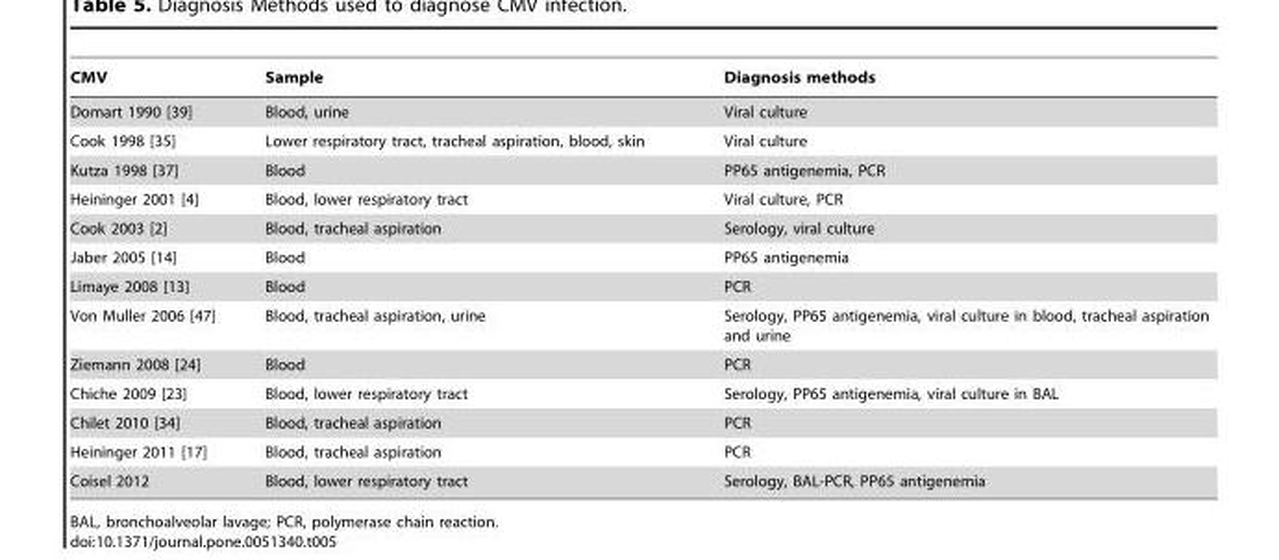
<table><thead><tr><td>CMV</td><td>Sample</td><td>Diagnosis methods</td></tr></thead><tbody><tr><td>Domart 1990 [39]</td><td>Blood, urine</td><td>Viral culture</td></tr><tr><td>Cook 1998 [35]</td><td>Lower respiratory tract, tracheal aspiration, blood, skin</td><td>Viral culture</td></tr><tr><td>Kutza 1998 [37]</td><td>Blood</td><td>PP65 antigenemia, PCR</td></tr><tr><td>Heininger 2001 [4]</td><td>Blood, lower respiratory tract</td><td>Viral culture, PCR</td></tr><tr><td>Cook 2003 [2]</td><td>Blood, tracheal aspiration</td><td>Serology, viral culture</td></tr><tr><td>Jaber 2005 [14]</td><td>Blood</td><td>PP65 antigenemia</td></tr><tr><td>Limaye 2008 [13]</td><td>Blood</td><td>PCR</td></tr><tr><td>Von Muller 2006 [47]</td><td>Blood, tracheal aspiration, urine</td><td>Serology, PP65 antigenemia, viral culture in blood, tracheal aspiration and urine</td></tr><tr><td>Ziemann 2008 [24]</td><td>Blood</td><td>PCR</td></tr><tr><td>Chiche 2009 [23]</td><td>Blood, lower respiratory tract</td><td>Serology, PP65 antigenemia, viral culture in BAL</td></tr><tr><td>Chilet 2010 [34]</td><td>Blood, tracheal aspiration</td><td>PCR</td></tr><tr><td>Heininger 2011 [17]</td><td>Blood, tracheal aspiration</td><td>PCR</td></tr><tr><td>Coisel 2012</td><td>Blood, lower respiratory tract</td><td>Serology, BAL-PCR, PP65 antigenemia</td></tr></tbody></table>